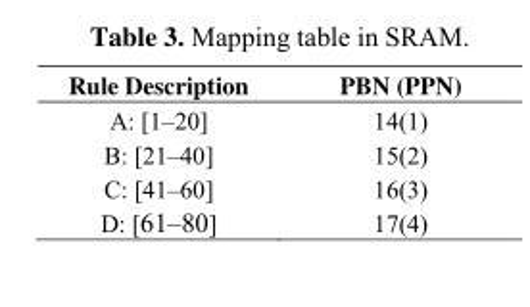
<table><thead><tr><td>Rule Description</td><td>PBN (PPN)</td></tr></thead><tbody><tr><td>A: [1–20]</td><td>14(1)</td></tr><tr><td>B: [21–40]</td><td>15(2)</td></tr><tr><td>C: [41–60]</td><td>16(3)</td></tr><tr><td>D: [61–80]</td><td>17(4)</td></tr></tbody></table>